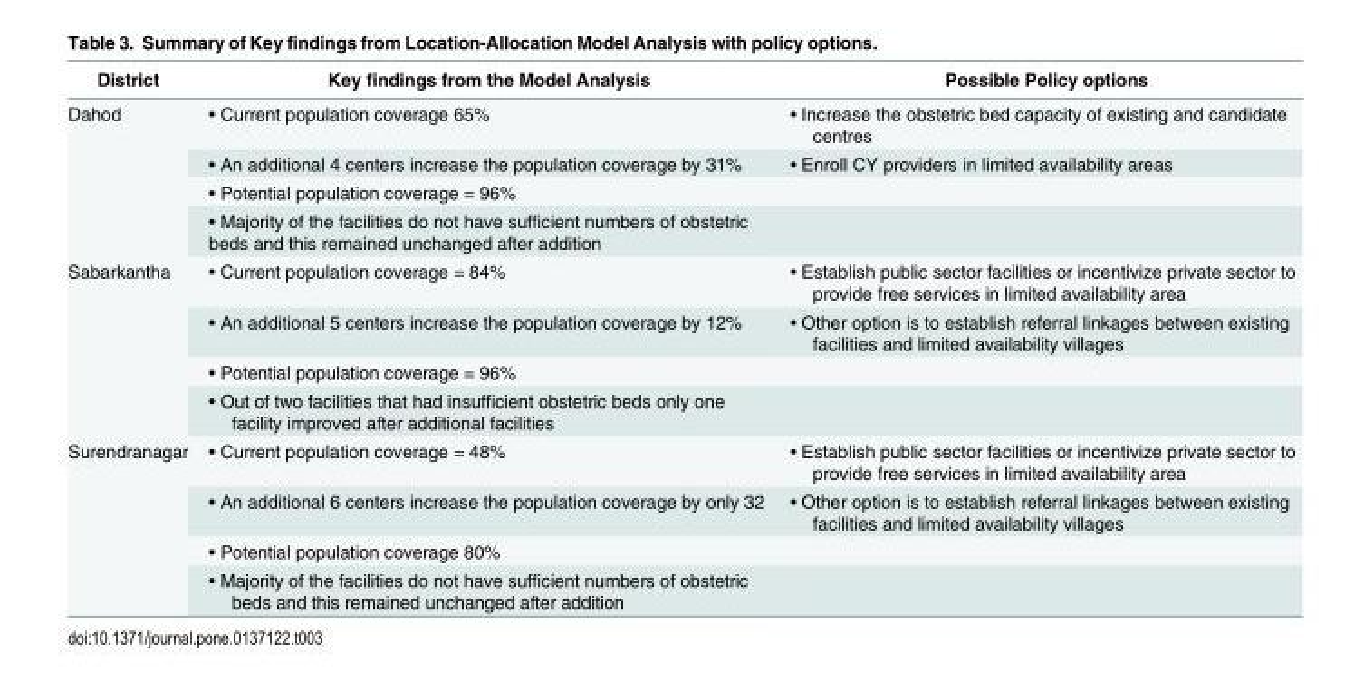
<table><thead><tr><td>District</td><td>Key findings from the Model Analysis</td><td>Possible Policy options</td></tr></thead><tbody><tr><td rowspan="4">Dahod</td><td>• Current population coverage 65%</td><td>• Increase the obstetric bed capacity of existing and candidate centres</td></tr><tr><td>• An additional 4 centers increase the population coverage by 31%</td><td>• Enroll CY providers in limited availability areas</td></tr><tr><td>• Potential population coverage = 96%</td><td></td></tr><tr><td>• Majority of the facilities do not have sufficient numbers of obstetric beds and this remained unchanged after addition</td><td></td></tr><tr><td rowspan="4">Sabarkantha</td><td>• Current population coverage = 84%</td><td>• Establish public sector facilities or incentivize private sector to provide free services in limited availability area</td></tr><tr><td>• An additional 5 centers increase the population coverage by 12%</td><td>• Other option is to establish referral linkages between existing facilities and limited availability villages</td></tr><tr><td>• Potential population coverage = 96%</td><td></td></tr><tr><td>• Out of two facilities that had insufficient obstetric beds only one facility improved after additional facilities</td><td></td></tr><tr><td rowspan="4">Surendranagar</td><td>• Current population coverage = 48%</td><td>• Establish public sector facilities or incentivize private sector to provide free services in limited availability area</td></tr><tr><td>• An additional 6 centers increase the population coverage by only 32</td><td>• Other option is to establish referral linkages between existing facilities and limited availability villages</td></tr><tr><td>• Potential population coverage 80%</td><td></td></tr><tr><td>• Majority of the facilities do not have sufficient numbers of obstetric beds and this remained unchanged after addition</td><td></td></tr></tbody></table>